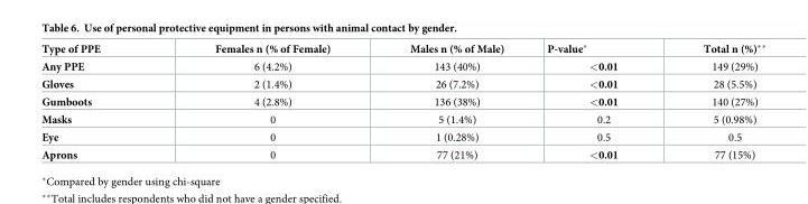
<table><thead><tr><td>Type of PPE</td><td>Females n (% of Female)</td><td>Males n (% of Male)</td><td>P-value*</td><td>Total n (%)**</td></tr></thead><tbody><tr><td>Any PPE</td><td>6 (4.2%)</td><td>143 (40%)</td><td>&lt;0.01</td><td>149 (29%)</td></tr><tr><td>Gloves</td><td>2 (1.4%)</td><td>26 (7.2%)</td><td>&lt;0.01</td><td>28 (5.5%)</td></tr><tr><td>Gumboots</td><td>4 (2.8%)</td><td>136 (38%)</td><td>&lt;0.01</td><td>140 (27%)</td></tr><tr><td>Masks</td><td>0</td><td>5 (1.4%)</td><td>0.2</td><td>5 (0.98%)</td></tr><tr><td>Eye</td><td>0</td><td>1 (0.28%)</td><td>0.5</td><td>0.5</td></tr><tr><td>Aprons</td><td>0</td><td>77 (21%)</td><td>&lt;0.01</td><td>77 (15%)</td></tr></tbody></table>